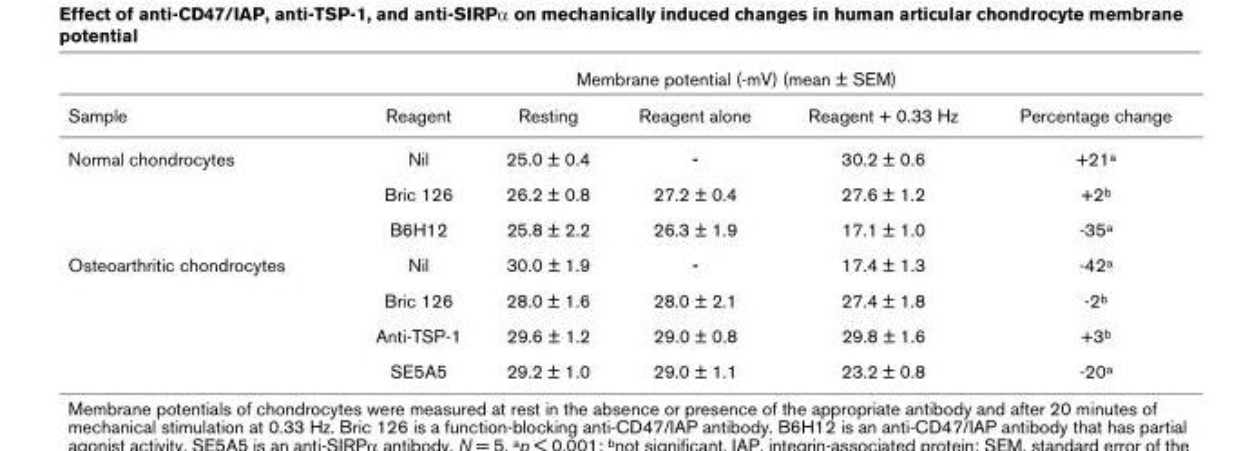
<table><thead><tr><td rowspan="2">Sample</td><td rowspan="2">Reagent</td><td colspan="3">Membrane potential (-mV) (mean ± SEM)</td><td rowspan="2">Percentage change</td></tr><tr><td>Resting</td><td>Reagent alone</td><td>Reagent + 0.33 Hz</td></tr></thead><tbody><tr><td rowspan="3">Normal chondrocytes</td><td>Nil</td><td>25.0 ± 0.4</td><td>-</td><td>30.2 ± 0.6</td><td>+21<sup>a</sup></td></tr><tr><td>Bric 126</td><td>26.2 ± 0.8</td><td>27.2 ± 0.4</td><td>27.6 ± 1.2</td><td>+2<sup>b</sup></td></tr><tr><td>B6H12</td><td>25.8 ± 2.2</td><td>26.3 ± 1.9</td><td>17.1 ± 1.0</td><td>-35<sup>a</sup></td></tr><tr><td rowspan="4">Osteoarthritic chondrocytes</td><td>Nil</td><td>30.0 ± 1.9</td><td>-</td><td>17.4 ± 1.3</td><td>-42<sup>a</sup></td></tr><tr><td>Bric 126</td><td>28.0 ± 1.6</td><td>28.0 ± 2.1</td><td>27.4 ± 1.8</td><td>-2<sup>b</sup></td></tr><tr><td>Anti-TSP-1</td><td>29.6 ± 1.2</td><td>29.0 ± 0.8</td><td>29.8 ± 1.6</td><td>+3<sup>b</sup></td></tr><tr><td>SE5A5</td><td>29.2 ± 1.0</td><td>29.0 ± 1.1</td><td>23.2 ± 0.8</td><td>-20<sup>a</sup></td></tr></tbody></table>